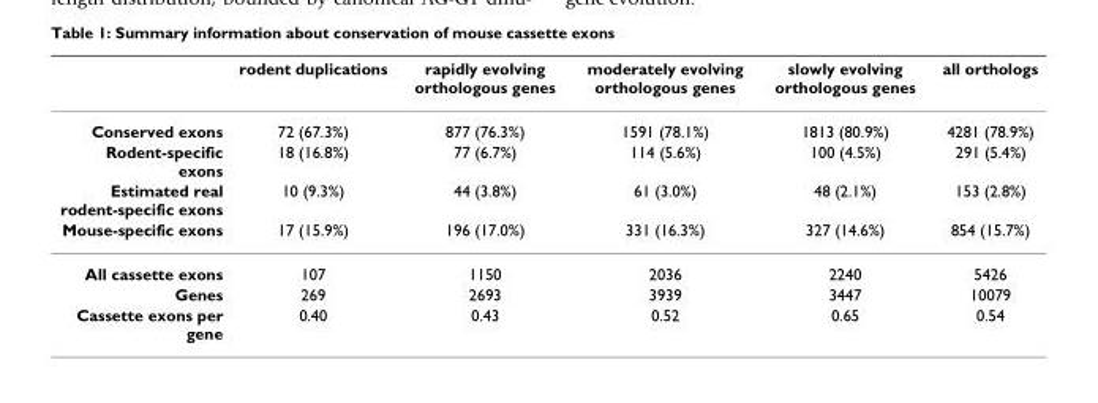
<table><thead><tr><td></td><td>rodent duplications</td><td>rapidly evolving orthologous genes</td><td>moderately evolving orthologous genes</td><td>slowly evolving orthologous genes</td><td>all orthologs</td></tr></thead><tbody><tr><td>Conserved exons</td><td>72 (67.3%)</td><td>877 (76.3%)</td><td>1591 (78.1%)</td><td>1813 (80.9%)</td><td>4281 (78.9%)</td></tr><tr><td>Rodent-specific exons</td><td>18 (16.8%)</td><td>77 (6.7%)</td><td>114 (5.6%)</td><td>100 (4.5%)</td><td>291 (5.4%)</td></tr><tr><td>Estimated real rodent-specific exons</td><td>10 (9.3%)</td><td>44 (3.8%)</td><td>61 (3.0%)</td><td>48 (2.1%)</td><td>153 (2.8%)</td></tr><tr><td>Mouse-specific exons</td><td>17 (15.9%)</td><td>196 (17.0%)</td><td>331 (16.3%)</td><td>327 (14.6%)</td><td>854 (15.7%)</td></tr><tr><td>All cassette exons</td><td>107</td><td>1150</td><td>2036</td><td>2240</td><td>5426</td></tr><tr><td>Genes</td><td>269</td><td>2693</td><td>3939</td><td>3447</td><td>10079</td></tr><tr><td>Cassette exons per gene</td><td>0.40</td><td>0.43</td><td>0.52</td><td>0.65</td><td>0.54</td></tr></tbody></table>